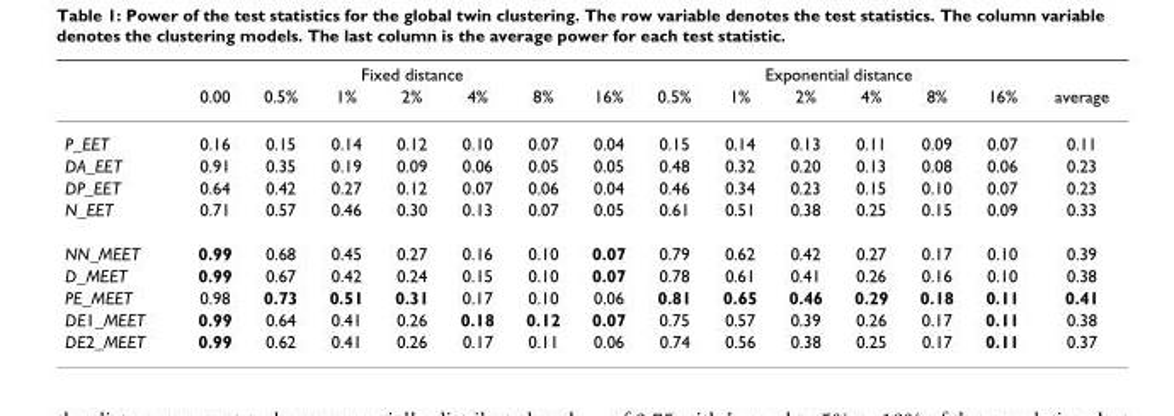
<table><thead><tr><td rowspan="2"></td><td colspan="7">Fixed distance</td><td colspan="6">Exponential distance</td><td rowspan="2">average</td></tr><tr><td>0.00</td><td>0.5%</td><td>1%</td><td>2%</td><td>4%</td><td>8%</td><td>16%</td><td>0.5%</td><td>1%</td><td>2%</td><td>4%</td><td>8%</td><td>16%</td></tr></thead><tbody><tr><td>P_EET</td><td>0.16</td><td>0.15</td><td>0.14</td><td>0.12</td><td>0.10</td><td>0.07</td><td>0.04</td><td>0.15</td><td>0.14</td><td>0.13</td><td>0.11</td><td>0.09</td><td>0.07</td><td>0.11</td></tr><tr><td>DA_EET</td><td>0.91</td><td>0.35</td><td>0.19</td><td>0.09</td><td>0.06</td><td>0.05</td><td>0.05</td><td>0.48</td><td>0.32</td><td>0.20</td><td>0.13</td><td>0.08</td><td>0.06</td><td>0.23</td></tr><tr><td>DP_EET</td><td>0.64</td><td>0.42</td><td>0.27</td><td>0.12</td><td>0.07</td><td>0.06</td><td>0.04</td><td>0.46</td><td>0.34</td><td>0.23</td><td>0.15</td><td>0.10</td><td>0.07</td><td>0.23</td></tr><tr><td>N_EET</td><td>0.71</td><td>0.57</td><td>0.46</td><td>0.30</td><td>0.13</td><td>0.07</td><td>0.05</td><td>0.61</td><td>0.51</td><td>0.38</td><td>0.25</td><td>0.15</td><td>0.09</td><td>0.33</td></tr><tr><td>NN_MEET</td><td>0.99</td><td>0.68</td><td>0.45</td><td>0.27</td><td>0.16</td><td>0.10</td><td>0.07</td><td>0.79</td><td>0.62</td><td>0.42</td><td>0.27</td><td>0.17</td><td>0.10</td><td>0.39</td></tr><tr><td>D_MEET</td><td>0.99</td><td>0.67</td><td>0.42</td><td>0.24</td><td>0.15</td><td>0.10</td><td>0.07</td><td>0.78</td><td>0.61</td><td>0.41</td><td>0.26</td><td>0.16</td><td>0.10</td><td>0.38</td></tr><tr><td>PE_MEET</td><td>0.98</td><td>0.73</td><td>0.51</td><td>0.31</td><td>0.17</td><td>0.10</td><td>0.06</td><td>0.81</td><td>0.65</td><td>0.46</td><td>0.29</td><td>0.18</td><td>0.11</td><td>0.41</td></tr><tr><td>DE1_MEET</td><td>0.99</td><td>0.64</td><td>0.41</td><td>0.26</td><td>0.18</td><td>0.12</td><td>0.07</td><td>0.75</td><td>0.57</td><td>0.39</td><td>0.26</td><td>0.17</td><td>0.11</td><td>0.38</td></tr><tr><td>DE2_MEET</td><td>0.99</td><td>0.62</td><td>0.41</td><td>0.26</td><td>0.17</td><td>0.11</td><td>0.06</td><td>0.74</td><td>0.56</td><td>0.38</td><td>0.25</td><td>0.17</td><td>0.11</td><td>0.37</td></tr></tbody></table>